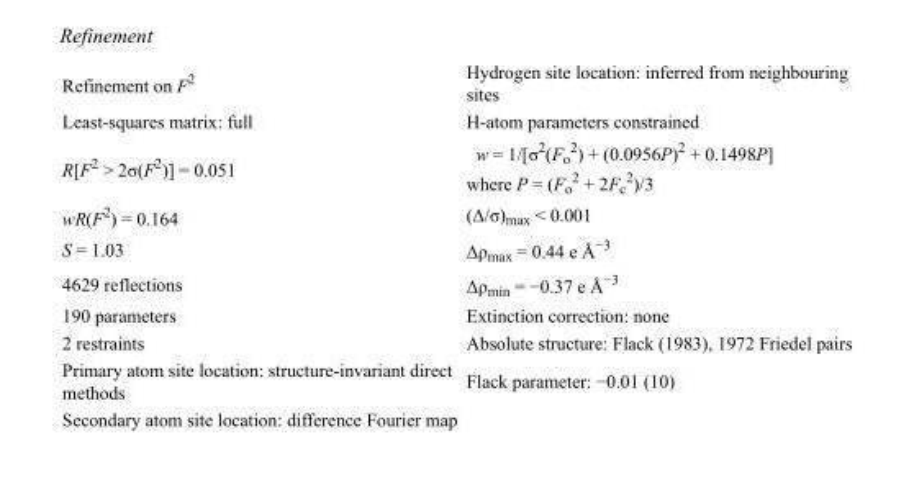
<table><tbody><tr><td>Refinement on F<sup>2</sup></td><td>Hydrogen site location: inferred from neighbouring sites</td></tr><tr><td>Least-squares matrix: full</td><td>H-atom parameters constrained</td></tr><tr><td>R[F<sup>2</sup> &gt; 2σ(F<sup>2</sup>)] = 0.051</td><td>w = 1/[σ<sup>2</sup>(F<sub>o</sub> <sup>2</sup>) + (0.0956P)<sup>2</sup> + 0.1498P] where P = (F<sub>o</sub> <sup>2</sup> + 2F<sub>c</sub> <sup>2</sup>)/3</td></tr><tr><td>wR(F<sup>2</sup>) = 0.164</td><td>(Δ/σ)<sub>max</sub> &lt; 0.001</td></tr><tr><td>S = 1.03</td><td>Δρ<sub>max</sub> = 0.44 e Å<sup>−3</sup></td></tr><tr><td>4629 reflections</td><td>Δρ<sub>min</sub> = −0.37 e Å<sup>−3</sup></td></tr><tr><td>190 parameters</td><td>Extinction correction: none</td></tr><tr><td>2 restraints</td><td>Absolute structure: Flack (1983), 1972 Friedel pairs</td></tr><tr><td>Primary atom site location: structure-invariant direct methods</td><td>Flack parameter: −0.01 (10)</td></tr><tr><td>Secondary atom site location: difference Fourier map</td><td></td></tr></tbody></table>